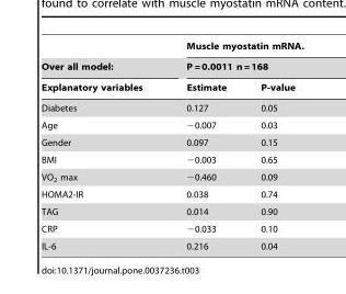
<table><thead><tr><td rowspan="3">Over all model: Explanatory variables</td><td rowspan="2" colspan="2">Muscle myostatin mRNA. P = 0.0011 n = 168</td></tr><tr></tr><tr><td>Estimate</td><td>P-value</td></tr></thead><tbody><tr><td>Diabetes</td><td>0.127</td><td>0.05</td></tr><tr><td>Age</td><td>−0.007</td><td>0.03</td></tr><tr><td>Gender</td><td>0.097</td><td>0.15</td></tr><tr><td>BMI</td><td>−0.003</td><td>0.65</td></tr><tr><td>VO<sub>2</sub> max</td><td>−0.460</td><td>0.09</td></tr><tr><td>HOMA2-IR</td><td>0.038</td><td>0.74</td></tr><tr><td>TAG</td><td>0.014</td><td>0.90</td></tr><tr><td>CRP</td><td>−0.033</td><td>0.10</td></tr><tr><td>IL-6</td><td>0.216</td><td>0.04</td></tr></tbody></table>